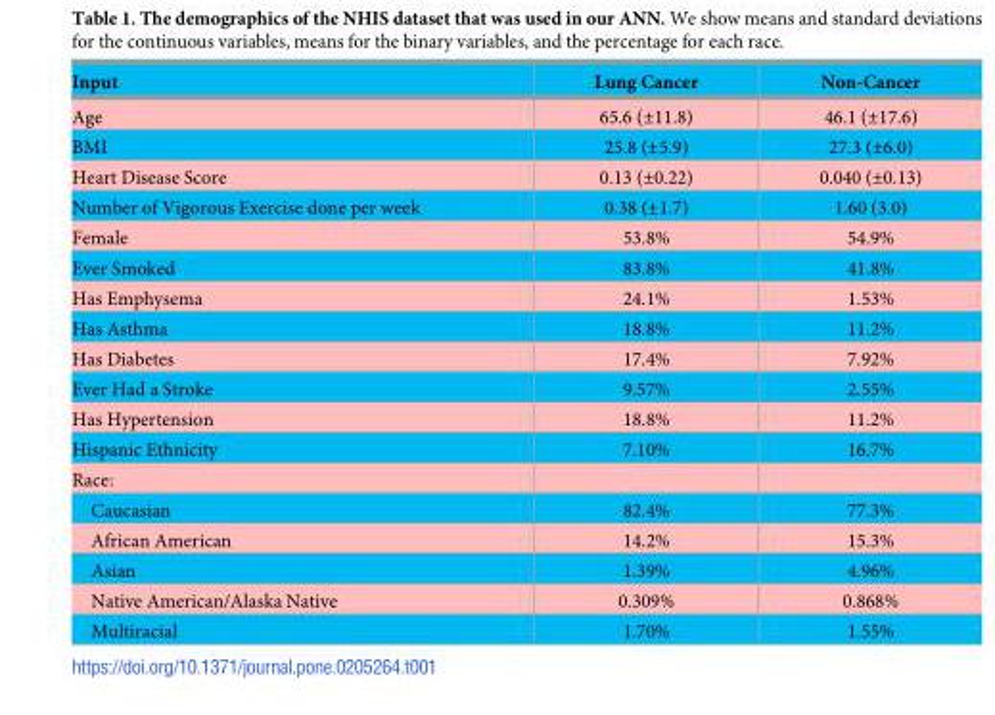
<table><thead><tr><td>Input</td><td>Lung Cancer</td><td>Non-Cancer</td></tr></thead><tbody><tr><td>Age</td><td>65.6 (±11.8)</td><td>46.1 (±17.6)</td></tr><tr><td>BMI</td><td>25.8 (±5.9)</td><td>27.3 (±6.0)</td></tr><tr><td>Heart Disease Score</td><td>0.13 (±0.22)</td><td>0.040 (±0.13)</td></tr><tr><td>Number of Vigorous Exercise done per week</td><td>0.38 (±1.7)</td><td>1.60 (3.0)</td></tr><tr><td>Female</td><td>53.8%</td><td>54.9%</td></tr><tr><td>Ever Smoked</td><td>83.8%</td><td>41.8%</td></tr><tr><td>Has Emphysema</td><td>24.1%</td><td>1.53%</td></tr><tr><td>Has Asthma</td><td>18.8%</td><td>11.2%</td></tr><tr><td>Has Diabetes</td><td>17.4%</td><td>7.92%</td></tr><tr><td>Ever Had a Stroke</td><td>9.57%</td><td>2.55%</td></tr><tr><td>Has Hypertension</td><td>18.8%</td><td>11.2%</td></tr><tr><td>Hispanic Ethnicity</td><td>7.10%</td><td>16.7%</td></tr><tr><td colspan="3">Race:</td></tr><tr><td>Caucasian</td><td>82.4%</td><td>77.3%</td></tr><tr><td>African American</td><td>14.2%</td><td>15.3%</td></tr><tr><td>Asian</td><td>1.39%</td><td>4.96%</td></tr><tr><td>Native American/Alaska Native</td><td>0.309%</td><td>0.868%</td></tr><tr><td>Multiracial</td><td>1.70%</td><td>1.55%</td></tr></tbody></table>